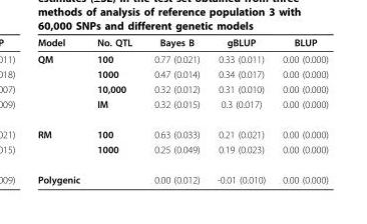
<table><thead><tr><td>Model</td><td>No. QTL</td><td>Bayes B</td><td>gBLUP</td><td>BLUP</td></tr></thead><tbody><tr><td rowspan="4">QM</td><td>100</td><td>0.77 (0.021)</td><td>0.33 (0.011)</td><td>0.00 (0.000)</td></tr><tr><td>1000</td><td>0.47 (0.014)</td><td>0.34 (0.017)</td><td>0.00 (0.000)</td></tr><tr><td>10,000</td><td>0.32 (0.012)</td><td>0.31 (0.010)</td><td>0.00 (0.000)</td></tr><tr><td>IM</td><td>0.32 (0.015)</td><td>0.3 (0.017)</td><td>0.00 (0.000)</td></tr><tr><td rowspan="2">RM</td><td>100</td><td>0.63 (0.033)</td><td>0.21 (0.021)</td><td>0.00 (0.000)</td></tr><tr><td>1000</td><td>0.25 (0.049)</td><td>0.19 (0.023)</td><td>0.00 (0.000)</td></tr><tr><td>Polygenic</td><td></td><td>0.00 (0.012)</td><td>-0.01 (0.010)</td><td>0.00 (0.000)</td></tr></tbody></table>